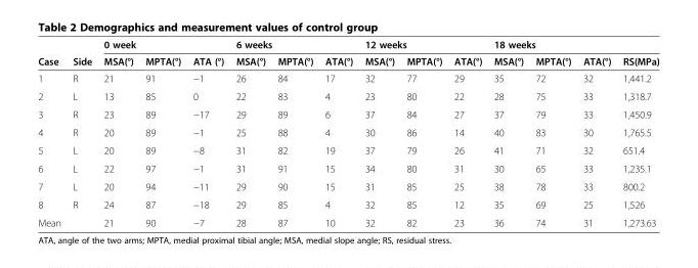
<table><thead><tr><td rowspan="2">Case</td><td rowspan="2">Side</td><td colspan="3">0 week</td><td colspan="3">6 weeks</td><td colspan="3">12 weeks</td><td colspan="4">18 weeks</td></tr><tr><td>MSA(°)</td><td>MPTA(°)</td><td>ATA (°)</td><td>MSA(°)</td><td>MPTA(°)</td><td>ATA(°)</td><td>MSA(°)</td><td>MPTA(°)</td><td>ATA(°)</td><td>MSA(°)</td><td>MPTA(°)</td><td>ATA(°)</td><td>RS(MPa)</td></tr></thead><tbody><tr><td>1</td><td>R</td><td>21</td><td>91</td><td>−1</td><td>26</td><td>84</td><td>17</td><td>32</td><td>77</td><td>29</td><td>35</td><td>72</td><td>32</td><td>1,441.2</td></tr><tr><td>2</td><td>L</td><td>13</td><td>85</td><td>0</td><td>22</td><td>83</td><td>4</td><td>23</td><td>80</td><td>22</td><td>28</td><td>75</td><td>33</td><td>1,318.7</td></tr><tr><td>3</td><td>R</td><td>23</td><td>89</td><td>−17</td><td>29</td><td>89</td><td>6</td><td>37</td><td>84</td><td>27</td><td>37</td><td>79</td><td>33</td><td>1,450.9</td></tr><tr><td>4</td><td>R</td><td>20</td><td>89</td><td>−1</td><td>25</td><td>88</td><td>4</td><td>30</td><td>86</td><td>14</td><td>40</td><td>83</td><td>30</td><td>1,765.5</td></tr><tr><td>5</td><td>L</td><td>20</td><td>89</td><td>−8</td><td>31</td><td>82</td><td>19</td><td>37</td><td>79</td><td>26</td><td>41</td><td>71</td><td>32</td><td>651.4</td></tr><tr><td>6</td><td>L</td><td>22</td><td>97</td><td>−1</td><td>31</td><td>91</td><td>15</td><td>34</td><td>80</td><td>31</td><td>30</td><td>65</td><td>33</td><td>1,235.1</td></tr><tr><td>7</td><td>L</td><td>20</td><td>94</td><td>−11</td><td>29</td><td>90</td><td>15</td><td>31</td><td>85</td><td>25</td><td>38</td><td>78</td><td>33</td><td>800.2</td></tr><tr><td>8</td><td>R</td><td>24</td><td>87</td><td>−18</td><td>29</td><td>85</td><td>4</td><td>32</td><td>85</td><td>12</td><td>35</td><td>69</td><td>25</td><td>1,526</td></tr><tr><td>Mean</td><td></td><td>21</td><td>90</td><td>−7</td><td>28</td><td>87</td><td>10</td><td>32</td><td>82</td><td>23</td><td>36</td><td>74</td><td>31</td><td>1,273.63</td></tr></tbody></table>